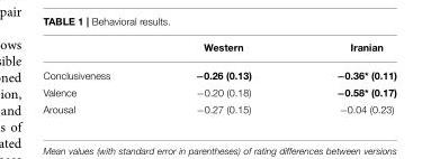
<table><thead><tr><td></td><td>Western</td><td>Iranian</td></tr></thead><tbody><tr><td>Conclusiveness</td><td>−0.26 (0.13)</td><td>−0.36* (0.11)</td></tr><tr><td>Valence</td><td>−0.20 (0.18)</td><td>−0.58* (0.17)</td></tr><tr><td>Arousal</td><td>−0.27 (0.15)</td><td>−0.04 (0.23)</td></tr></tbody></table>